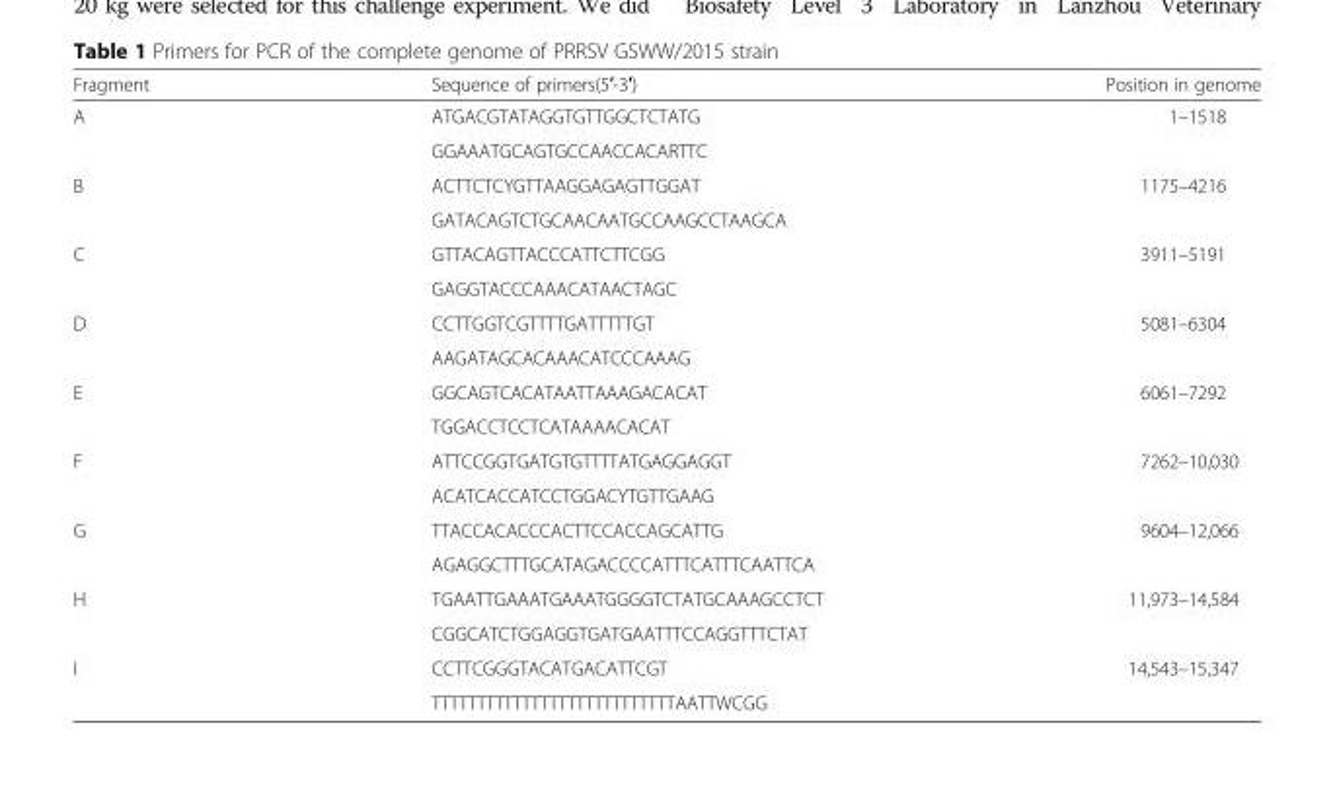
<table><thead><tr><td>Fragment</td><td>Sequence of primers(5′-3′)</td><td>Position in genome</td></tr></thead><tbody><tr><td rowspan="2">A</td><td>ATGACGTATAGGTGTTGGCTCTATG</td><td rowspan="2">1–1518</td></tr><tr><td>GGAAATGCAGTGCCAACCACARTTC</td></tr><tr><td rowspan="2">B</td><td>ACTTCTCYGTTAAGGAGAGTTGGAT</td><td rowspan="2">1175–4216</td></tr><tr><td>GATACAGTCTGCAACAATGCCAAGCCTAAGCA</td></tr><tr><td rowspan="2">C</td><td>GTTACAGTTACCCATTCTTCGG</td><td rowspan="2">3911–5191</td></tr><tr><td>GAGGTACCCAAACATAACTAGC</td></tr><tr><td rowspan="2">D</td><td>CCTTGGTCGTTTTGATTTTTGT</td><td rowspan="2">5081–6304</td></tr><tr><td>AAGATAGCACAAACATCCCAAAG</td></tr><tr><td rowspan="2">E</td><td>GGCAGTCACATAATTAAAGACACAT</td><td rowspan="2">6061–7292</td></tr><tr><td>TGGACCTCCTCATAAAACACAT</td></tr><tr><td rowspan="2">F</td><td>ATTCCGGTGATGTGTTTTATGAGGAGGT</td><td rowspan="2">7262–10,030</td></tr><tr><td>ACATCACCATCCTGGACYTGTTGAAG</td></tr><tr><td rowspan="2">G</td><td>TTACCACACCCACTTCCACCAGCATTG</td><td rowspan="2">9604–12,066</td></tr><tr><td>AGAGGCTTTGCATAGACCCCATTTCATTTCAATTCA</td></tr><tr><td rowspan="2">H</td><td>TGAATTGAAATGAAATGGGGTCTATGCAAAGCCTCT</td><td rowspan="2">11,973–14,584</td></tr><tr><td>CGGCATCTGGAGGTGATGAATTTCCAGGTTTCTAT</td></tr><tr><td rowspan="2">I</td><td>CCTTCGGGTACATGACATTCGT</td><td rowspan="2">14,543–15,347</td></tr><tr><td>TTTTTTTTTTTTTTTTTTTTTTTTTTTAATTWCGG</td></tr></tbody></table>